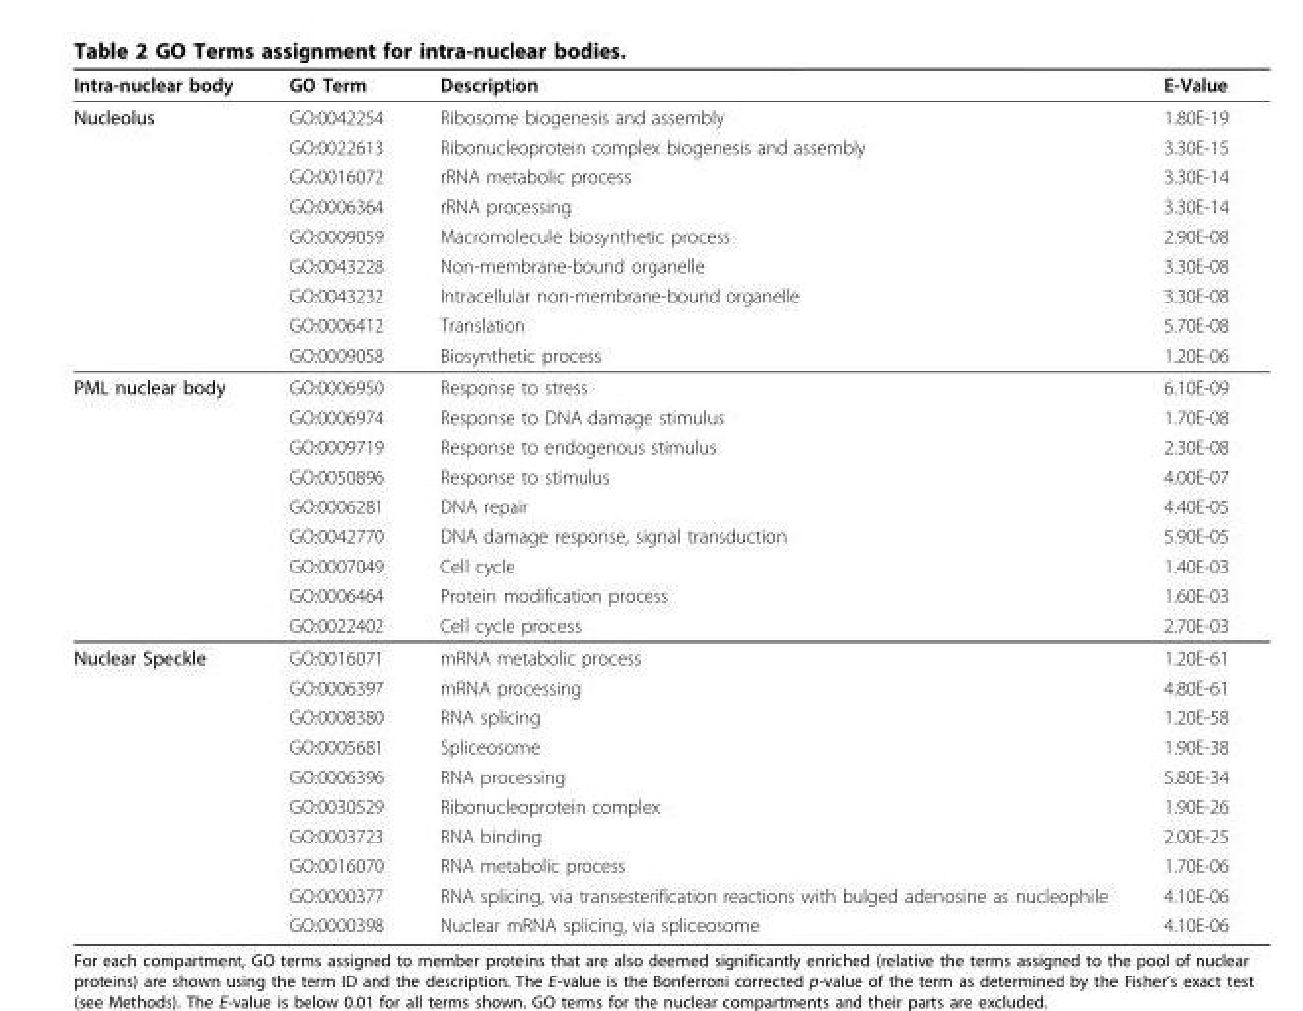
<table><thead><tr><td>Intra-nuclear body</td><td>GO Term</td><td>Description</td><td>E-Value</td></tr></thead><tbody><tr><td rowspan="9">Nucleolus</td><td>GO:0042254</td><td>Ribosome biogenesis and assembly</td><td>1.80E-19</td></tr><tr><td>GO:0022613</td><td>Ribonucleoprotein complex biogenesis and assembly</td><td>3.30E-15</td></tr><tr><td>GO:0016072</td><td>rRNA metabolic process</td><td>3.30E-14</td></tr><tr><td>GO:0006364</td><td>rRNA processing</td><td>3.30E-14</td></tr><tr><td>GO:0009059</td><td>Macromolecule biosynthetic process</td><td>2.90E-08</td></tr><tr><td>GO:0043228</td><td>Non-membrane-bound organelle</td><td>3.30E-08</td></tr><tr><td>GO:0043232</td><td>Intracellular non-membrane-bound organelle</td><td>3.30E-08</td></tr><tr><td>GO:0006412</td><td>Translation</td><td>5.70E-08</td></tr><tr><td>GO:0009058</td><td>Biosynthetic process</td><td>1.20E-06</td></tr><tr><td rowspan="9">PML nuclear body</td><td>GO:0006950</td><td>Response to stress</td><td>6.10E-09</td></tr><tr><td>GO:0006974</td><td>Response to DNA damage stimulus</td><td>1.70E-08</td></tr><tr><td>GO:0009719</td><td>Response to endogenous stimulus</td><td>2.30E-08</td></tr><tr><td>GO:0050896</td><td>Response to stimulus</td><td>4.00E-07</td></tr><tr><td>GO:0006281</td><td>DNA repair</td><td>4.40E-05</td></tr><tr><td>GO:0042770</td><td>DNA damage response, signal transduction</td><td>5.90E-05</td></tr><tr><td>GO:0007049</td><td>Cell cycle</td><td>1.40E-03</td></tr><tr><td>GO:0006464</td><td>Protein modification process</td><td>1.60E-03</td></tr><tr><td>GO:0022402</td><td>Cell cycle process</td><td>2.70E-03</td></tr><tr><td rowspan="10">Nuclear Speckle</td><td>GO:0016071</td><td>mRNA metabolic process</td><td>1.20E-61</td></tr><tr><td>GO:0006397</td><td>mRNA processing</td><td>4.80E-61</td></tr><tr><td>GO:0008380</td><td>RNA splicing</td><td>1.20E-58</td></tr><tr><td>GO:0005681</td><td>Spliceosome</td><td>1.90E-38</td></tr><tr><td>GO:0006396</td><td>RNA processing</td><td>5.80E-34</td></tr><tr><td>GO:0030529</td><td>Ribonucleoprotein complex</td><td>1.90E-26</td></tr><tr><td>GO:0003723</td><td>RNA binding</td><td>2.00E-25</td></tr><tr><td>GO:0016070</td><td>RNA metabolic process</td><td>1.70E-06</td></tr><tr><td>GO:0000377</td><td>RNA splicing, via transesterification reactions with bulged adenosine as nucleophile</td><td>4.10E-06</td></tr><tr><td>GO:0000398</td><td>Nuclear mRNA splicing, via spliceosome</td><td>4.10E-06</td></tr></tbody></table>